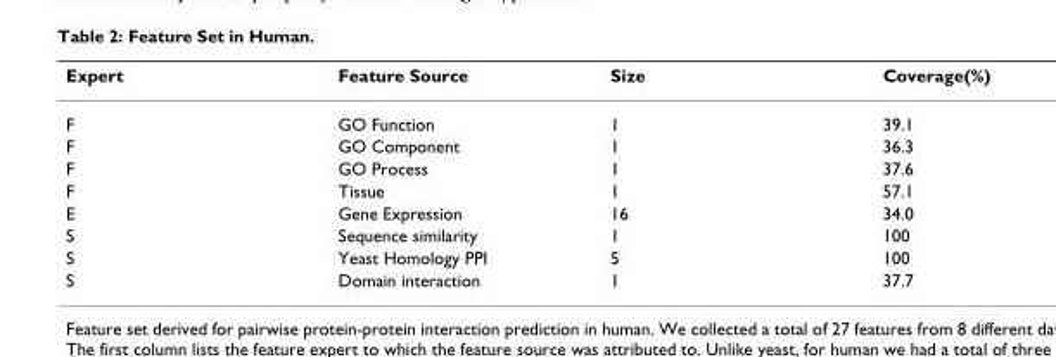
<table><thead><tr><td>Expert</td><td>Feature Source</td><td>Size</td><td>Coverage(%)</td></tr></thead><tbody><tr><td>F</td><td>GO Function</td><td>1</td><td>39.1</td></tr><tr><td>F</td><td>GO Component</td><td>1</td><td>36.3</td></tr><tr><td>F</td><td>GO Process</td><td>1</td><td>37.6</td></tr><tr><td>F</td><td>Tissue</td><td>1</td><td>57.1</td></tr><tr><td>E</td><td>Gene Expression</td><td>16</td><td>34.0</td></tr><tr><td>S</td><td>Sequence similarity</td><td>1</td><td>100</td></tr><tr><td>S</td><td>Yeast Homology PPI</td><td>5</td><td>100</td></tr><tr><td>S</td><td>Domain interaction</td><td>1</td><td>37.7</td></tr></tbody></table>